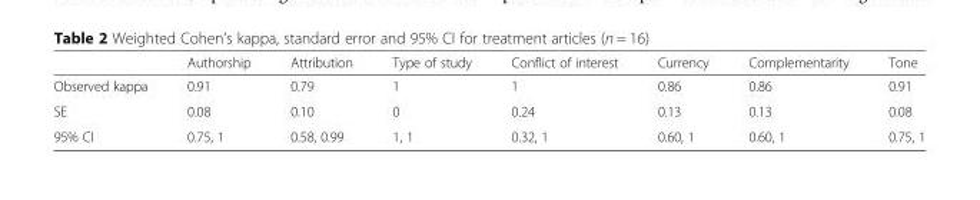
<table><thead><tr><td></td><td>Authorship</td><td>Attribution</td><td>Type of study</td><td>Conflict of interest</td><td>Currency</td><td>Complementarity</td><td>Tone</td></tr></thead><tbody><tr><td>Observed kappa</td><td>0.91</td><td>0.79</td><td>1</td><td>1</td><td>0.86</td><td>0.86</td><td>0.91</td></tr><tr><td>SE</td><td>0.08</td><td>0.10</td><td>0</td><td>0.24</td><td>0.13</td><td>0.13</td><td>0.08</td></tr><tr><td>95% CI</td><td>0.75, 1</td><td>0.58, 0.99</td><td>1, 1</td><td>0.32, 1</td><td>0.60, 1</td><td>0.60, 1</td><td>0.75, 1</td></tr></tbody></table>